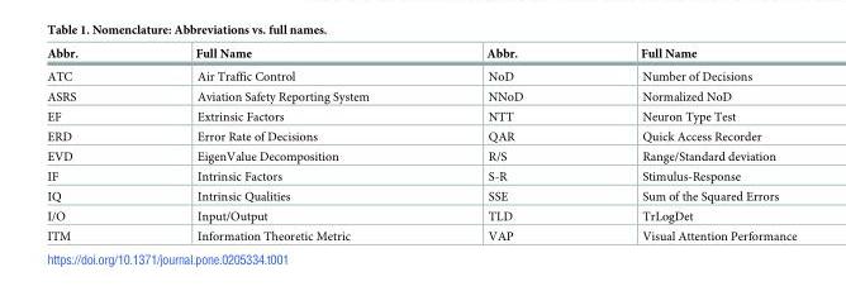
<table><thead><tr><td>Abbr.</td><td>Full Name</td><td>Abbr.</td><td>Full Name</td></tr></thead><tbody><tr><td>ATC</td><td>Air Traffic Control</td><td>NoD</td><td>Number of Decisions</td></tr><tr><td>ASRS</td><td>Aviation Safety Reporting System</td><td>NNoD</td><td>Normalized NoD</td></tr><tr><td>EF</td><td>Extrinsic Factors</td><td>NTT</td><td>Neuron Type Test</td></tr><tr><td>ERD</td><td>Error Rate of Decisions</td><td>QAR</td><td>Quick Access Recorder</td></tr><tr><td>EVD</td><td>EigenValue Decomposition</td><td>R/S</td><td>Range/Standard deviation</td></tr><tr><td>IF</td><td>Intrinsic Factors</td><td>S-R</td><td>Stimulus-Response</td></tr><tr><td>IQ</td><td>Intrinsic Qualities</td><td>SSE</td><td>Sum of the Squared Errors</td></tr><tr><td>I/O</td><td>Input/Output</td><td>TLD</td><td>TrLogDet</td></tr><tr><td>ITM</td><td>Information Theoretic Metric</td><td>VAP</td><td>Visual Attention Performance</td></tr></tbody></table>